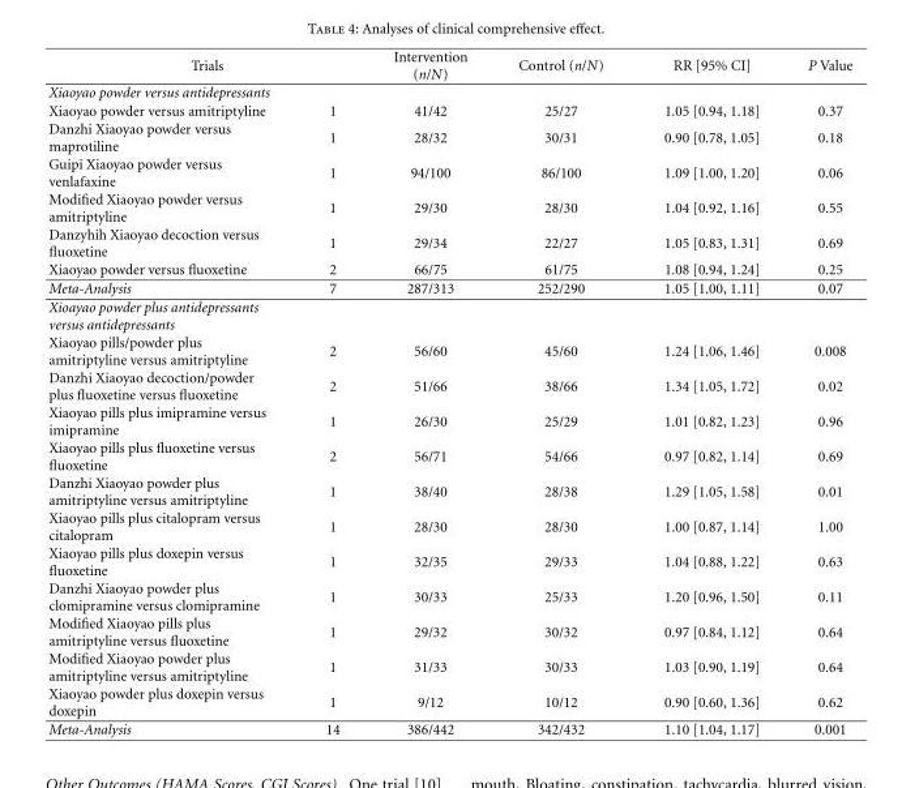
<table><thead><tr><td colspan="2">Trials</td><td rowspan="2">Intervention (n/N)</td><td rowspan="2">Control (n/N)</td><td rowspan="2">RR [95% CI]</td><td rowspan="2">P Value</td></tr><tr><td>Xiaoyao powder versus antidepressants</td><td></td></tr></thead><tbody><tr><td>Xiaoyao powder versus amitriptyline</td><td>1</td><td>41/42</td><td>25/27</td><td>1.05 [0.94, 1.18]</td><td>0.37</td></tr><tr><td>Danzhi Xiaoyao powder versus maprotiline</td><td>1</td><td>28/32</td><td>30/31</td><td>0.90 [0.78, 1.05]</td><td>0.18</td></tr><tr><td>Guipi Xiaoyao powder versus venlafaxine</td><td>1</td><td>94/100</td><td>86/100</td><td>1.09 [1.00, 1.20]</td><td>0.06</td></tr><tr><td>Modified Xiaoyao powder versus amitriptyline</td><td>1</td><td>29/30</td><td>28/30</td><td>1.04 [0.92, 1.16]</td><td>0.55</td></tr><tr><td>Danzyhih Xiaoyao decoction versus fluoxetine</td><td>1</td><td>29/34</td><td>22/27</td><td>1.05 [0.83, 1.31]</td><td>0.69</td></tr><tr><td>Xiaoyao powder versus fluoxetine</td><td>2</td><td>66/75</td><td>61/75</td><td>1.08 [0.94, 1.24]</td><td>0.25</td></tr><tr><td>Meta-Analysis</td><td>7</td><td>287/313</td><td>252/290</td><td>1.05 [1.00, 1.11]</td><td>0.07</td></tr><tr><td colspan="6">Xioayao powder plus antidepressants versus antidepressants</td></tr><tr><td>Xiaoyao pills/powder plus amitriptyline versus amitriptyline</td><td>2</td><td>56/60</td><td>45/60</td><td>1.24 [1.06, 1.46]</td><td>0.008</td></tr><tr><td>Danzhi Xiaoyao decoction/powder plus fluoxetine versus fluoxetine</td><td>2</td><td>51/66</td><td>38/66</td><td>1.34 [1.05, 1.72]</td><td>0.02</td></tr><tr><td>Xiaoyao pills plus imipramine versus imipramine</td><td>1</td><td>26/30</td><td>25/29</td><td>1.01 [0.82, 1.23]</td><td>0.96</td></tr><tr><td>Xiaoyao pills plus fluoxetine versus fluoxetine</td><td>2</td><td>56/71</td><td>54/66</td><td>0.97 [0.82, 1.14]</td><td>0.69</td></tr><tr><td>Danzhi Xiaoyao powder plus amitriptyline versus amitriptyline</td><td>1</td><td>38/40</td><td>28/38</td><td>1.29 [1.05, 1.58]</td><td>0.01</td></tr><tr><td>Xiaoyao pills plus citalopram versus citalopram</td><td>1</td><td>28/30</td><td>28/30</td><td>1.00 [0.87, 1.14]</td><td>1.00</td></tr><tr><td>Xiaoyao pills plus doxepin versus fluoxetine</td><td>1</td><td>32/35</td><td>29/33</td><td>1.04 [0.88, 1.22]</td><td>0.63</td></tr><tr><td>Danzhi Xiaoyao powder plus clomipramine versus clomipramine</td><td>1</td><td>30/33</td><td>25/33</td><td>1.20 [0.96, 1.50]</td><td>0.11</td></tr><tr><td>Modified Xiaoyao pills plus amitriptyline versus fluoxetine</td><td>1</td><td>29/32</td><td>30/32</td><td>0.97 [0.84, 1.12]</td><td>0.64</td></tr><tr><td>Modified Xiaoyao powder plus amitriptyline versus amitriptyline</td><td>1</td><td>31/33</td><td>30/33</td><td>1.03 [0.90, 1.19]</td><td>0.64</td></tr><tr><td>Xiaoyao powder plus doxepin versus doxepin</td><td>1</td><td>9/12</td><td>10/12</td><td>0.90 [0.60, 1.36]</td><td>0.62</td></tr><tr><td>Meta-Analysis</td><td>14</td><td>386/442</td><td>342/432</td><td>1.10 [1.04, 1.17]</td><td>0.001</td></tr></tbody></table>